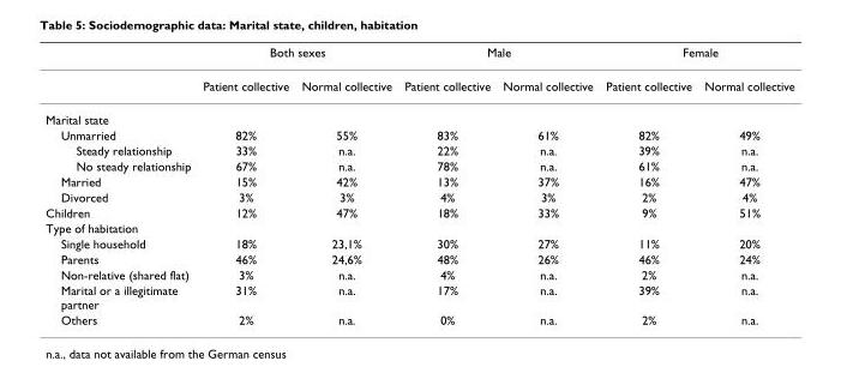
<table><thead><tr><td rowspan="2"></td><td colspan="2">Both sexes</td><td colspan="2">Male</td><td colspan="2">Female</td></tr><tr><td>Patient collective</td><td>Normal collective</td><td>Patient collective</td><td>Normal collective</td><td>Patient collective</td><td>Normal collective</td></tr></thead><tbody><tr><td colspan="7">Marital state</td></tr><tr><td>Unmarried</td><td>82%</td><td>55%</td><td>83%</td><td>61%</td><td>82%</td><td>49%</td></tr><tr><td>Steady relationship</td><td>33%</td><td>n.a.</td><td>22%</td><td>n.a.</td><td>39%</td><td>n.a.</td></tr><tr><td>No steady relationship</td><td>67%</td><td>n.a.</td><td>78%</td><td>n.a.</td><td>61%</td><td>n.a.</td></tr><tr><td>Married</td><td>15%</td><td>42%</td><td>13%</td><td>37%</td><td>16%</td><td>47%</td></tr><tr><td>Divorced</td><td>3%</td><td>3%</td><td>4%</td><td>3%</td><td>2%</td><td>4%</td></tr><tr><td>Children</td><td>12%</td><td>47%</td><td>18%</td><td>33%</td><td>9%</td><td>51%</td></tr><tr><td colspan="7">Type of habitation</td></tr><tr><td>Single household</td><td>18%</td><td>23,1%</td><td>30%</td><td>27%</td><td>11%</td><td>20%</td></tr><tr><td>Parents</td><td>46%</td><td>24,6%</td><td>48%</td><td>26%</td><td>46%</td><td>24%</td></tr><tr><td>Non-relative (shared flat)</td><td>3%</td><td>n.a.</td><td>4%</td><td>n.a.</td><td>2%</td><td>n.a.</td></tr><tr><td>Marital or a illegitimate partner</td><td>31%</td><td>n.a.</td><td>17%</td><td>n.a.</td><td>39%</td><td>n.a.</td></tr><tr><td>Others</td><td>2%</td><td>n.a.</td><td>0%</td><td>n.a.</td><td>2%</td><td>n.a.</td></tr></tbody></table>